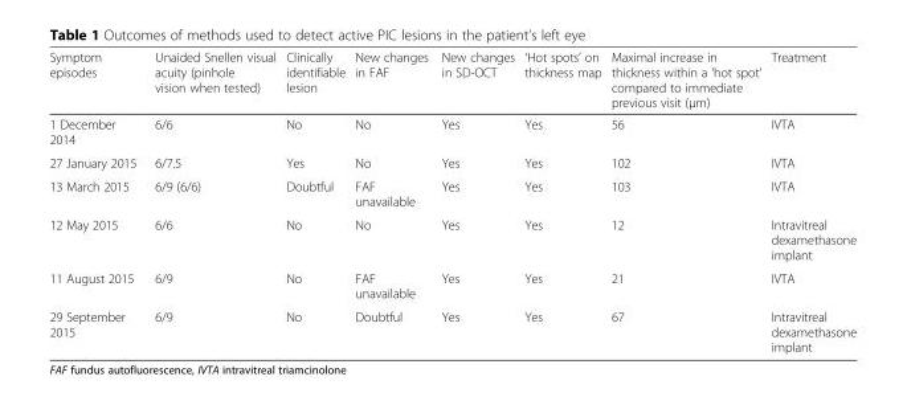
<table><thead><tr><td>Symptom episodes</td><td>Unaided Snellen visual acuity (pinhole vision when tested)</td><td>Clinically identifiable lesion</td><td>New changes in FAF</td><td>New changes in SD-OCT</td><td>‘Hot spots’ on thickness map</td><td>Maximal increase in thickness within a ‘hot spot’ compared to immediate previous visit (μm)</td><td>Treatment</td></tr></thead><tbody><tr><td>1 December 2014</td><td>6/6</td><td>No</td><td>No</td><td>Yes</td><td>Yes</td><td>56</td><td>IVTA</td></tr><tr><td>27 January 2015</td><td>6/7.5</td><td>Yes</td><td>No</td><td>Yes</td><td>Yes</td><td>102</td><td>IVTA</td></tr><tr><td>13 March 2015</td><td>6/9 (6/6)</td><td>Doubtful</td><td>FAF unavailable</td><td>Yes</td><td>Yes</td><td>103</td><td>IVTA</td></tr><tr><td>12 May 2015</td><td>6/6</td><td>No</td><td>No</td><td>Yes</td><td>Yes</td><td>12</td><td>Intravitreal dexamethasone implant</td></tr><tr><td>11 August 2015</td><td>6/9</td><td>No</td><td>FAF unavailable</td><td>Yes</td><td>Yes</td><td>21</td><td>IVTA</td></tr><tr><td>29 September 2015</td><td>6/9</td><td>No</td><td>Doubtful</td><td>Yes</td><td>Yes</td><td>67</td><td>Intravitreal dexamethasone implant</td></tr></tbody></table>